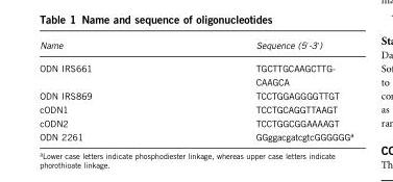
<table><thead><tr><td>Name</td><td>Sequence (5′-3′)</td></tr></thead><tbody><tr><td>ODN IRS661</td><td>TGCTTGCAAGCTTG- CAAGCA</td></tr><tr><td>ODN IRS869</td><td>TCCTGGAGGGGTTGT</td></tr><tr><td>cODN1</td><td>TCCTGCAGGTTAAGT</td></tr><tr><td>cODN2</td><td>TCCTGGCGGAAAAGT</td></tr><tr><td>ODN 2261</td><td>GGggacgatcgtcGGGGGG<sup>a</sup></td></tr></tbody></table>